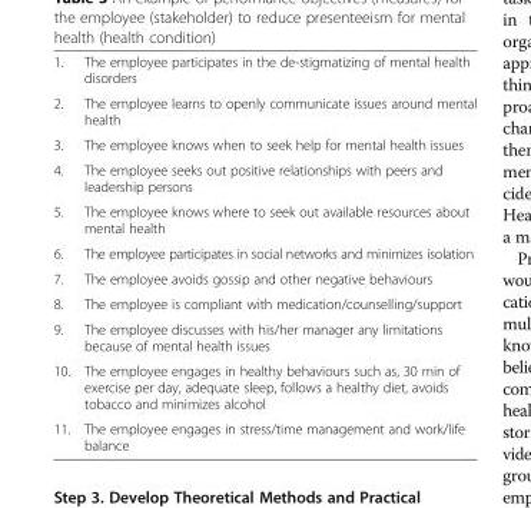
<table><tbody><tr><td>1.</td><td>The employee participates in the de-stigmatizing of mental health disorders</td></tr><tr><td>2.</td><td>The employee learns to openly communicate issues around mental health</td></tr><tr><td>3.</td><td>The employee knows when to seek help for mental health issues</td></tr><tr><td>4.</td><td>The employee seeks out positive relationships with peers and leadership persons</td></tr><tr><td>5.</td><td>The employee knows where to seek out available resources about mental health</td></tr><tr><td>6.</td><td>The employee participates in social networks and minimizes isolation</td></tr><tr><td>7.</td><td>The employee avoids gossip and other negative behaviours</td></tr><tr><td>8.</td><td>The employee is compliant with medication/counselling/support</td></tr><tr><td>9.</td><td>The employee discusses with his/her manager any limitations because of mental health issues</td></tr><tr><td>10.</td><td>The employee engages in healthy behaviours such as, 30 min of exercise per day, adequate sleep, follows a healthy diet, avoids tobacco and minimizes alcohol</td></tr><tr><td>11.</td><td>The employee engages in stress/time management and work/life balance</td></tr></tbody></table>